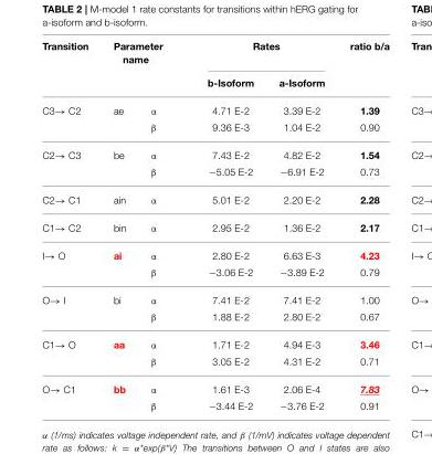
<table><thead><tr><td rowspan="2">Transition</td><td colspan="2">Parameter name</td><td colspan="2">Rates</td><td rowspan="2">ratio b/a</td></tr><tr><td></td><td></td><td>b-Isoform</td><td>a-Isoform</td></tr></thead><tbody><tr><td rowspan="2">C3→ C2</td><td>ae</td><td>α</td><td>4.71 E-2</td><td>3.39 E-2</td><td>1.39</td></tr><tr><td></td><td>β</td><td>9.36 E-3</td><td>1.04 E-2</td><td>0.90</td></tr><tr><td rowspan="2">C2→ C3</td><td>be</td><td>α</td><td>7.43 E-2</td><td>4.82 E-2</td><td>1.54</td></tr><tr><td></td><td>β</td><td>−5.05 E-2</td><td>−6.91 E-2</td><td>0.73</td></tr><tr><td>C2→ C1</td><td>ain</td><td>α</td><td>5.01 E-2</td><td>2.20 E-2</td><td>2.28</td></tr><tr><td>C1→ C2</td><td>bin</td><td>α</td><td>2.95 E-2</td><td>1.36 E-2</td><td>2.17</td></tr><tr><td rowspan="2">I→ O</td><td>ai</td><td>α</td><td>2.80 E-2</td><td>6.63 E-3</td><td>4.23</td></tr><tr><td></td><td>β</td><td>−3.06 E-2</td><td>−3.89 E-2</td><td>0.79</td></tr><tr><td rowspan="2">O→ I</td><td>bi</td><td>α</td><td>7.41 E-2</td><td>7.41 E-2</td><td>1.00</td></tr><tr><td></td><td>β</td><td>1.88 E-2</td><td>2.80 E-2</td><td>0.67</td></tr><tr><td rowspan="2">C1→ O</td><td>aa</td><td>α</td><td>1.71 E-2</td><td>4.94 E-3</td><td>3.46</td></tr><tr><td></td><td>β</td><td>3.05 E-2</td><td>4.31 E-2</td><td>0.71</td></tr><tr><td rowspan="2">O→ C1</td><td>bb</td><td>α</td><td>1.61 E-3</td><td>2.06 E-4</td><td>7.83</td></tr><tr><td></td><td>β</td><td>−3.44 E-2</td><td>−3.76 E-2</td><td>0.91</td></tr></tbody></table>